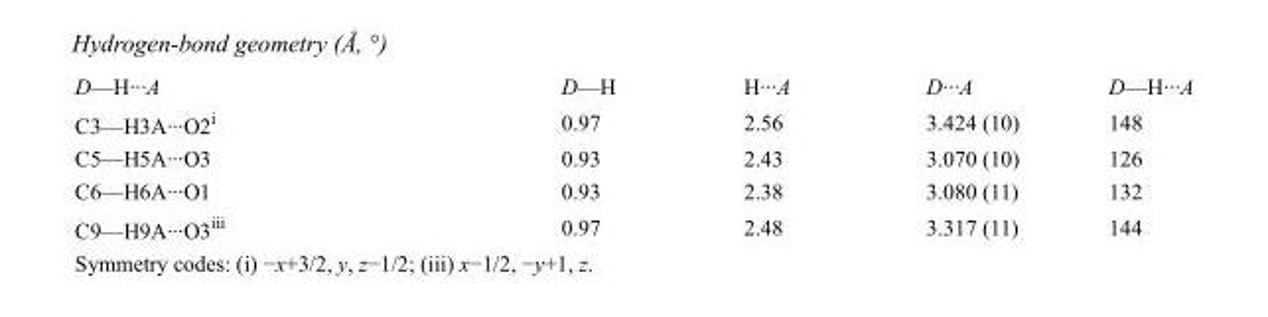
<table><tbody><tr><td>D—H···A</td><td>D—H</td><td>H···A</td><td>D···A</td><td>D—H···A</td></tr><tr><td>C3—H3A···O2<sup>i</sup></td><td>0.97</td><td>2.56</td><td>3.424 (10)</td><td>148</td></tr><tr><td>C5—H5A···O3</td><td>0.93</td><td>2.43</td><td>3.070 (10)</td><td>126</td></tr><tr><td>C6—H6A···O1</td><td>0.93</td><td>2.38</td><td>3.080 (11)</td><td>132</td></tr><tr><td>C9—H9A···O3<sup>iii</sup></td><td>0.97</td><td>2.48</td><td>3.317 (11)</td><td>144</td></tr></tbody></table>